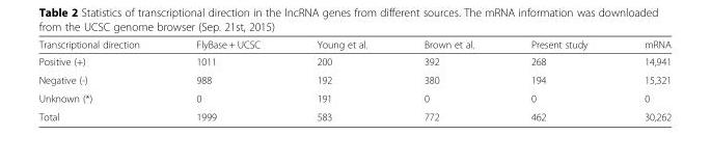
<table><thead><tr><td>Transcriptional direction</td><td>FlyBase + UCSC</td><td>Young et al.</td><td>Brown et al.</td><td>Present study</td><td>mRNA</td></tr></thead><tbody><tr><td>Positive (+)</td><td>1011</td><td>200</td><td>392</td><td>268</td><td>14,941</td></tr><tr><td>Negative (-)</td><td>988</td><td>192</td><td>380</td><td>194</td><td>15,321</td></tr><tr><td>Unknown (*)</td><td>0</td><td>191</td><td>0</td><td>0</td><td>0</td></tr><tr><td>Total</td><td>1999</td><td>583</td><td>772</td><td>462</td><td>30,262</td></tr></tbody></table>